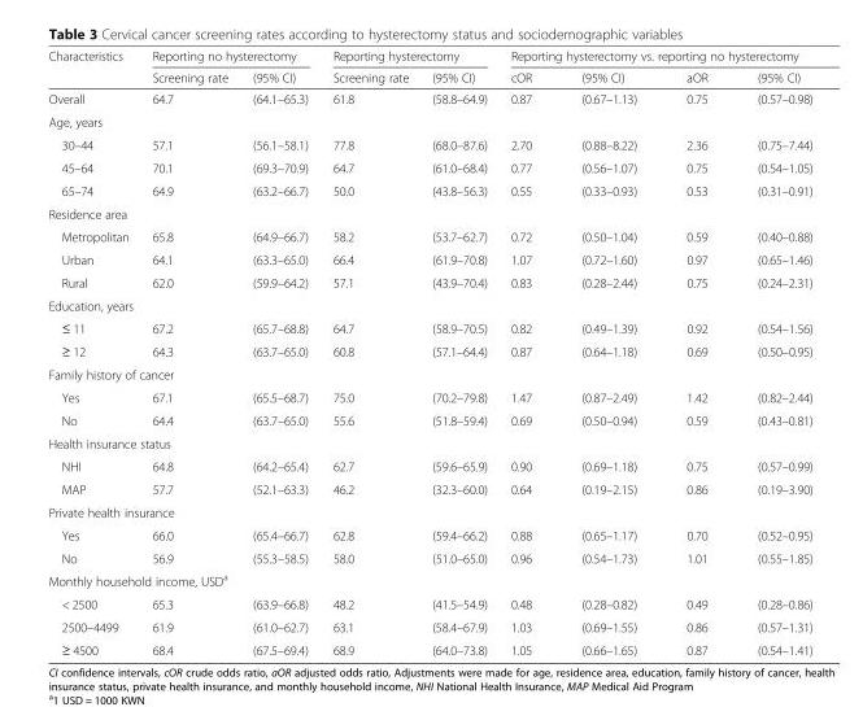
<table><thead><tr><td rowspan="2">Characteristics</td><td colspan="2">Reporting no hysterectomy</td><td colspan="2">Reporting hysterectomy</td><td colspan="4">Reporting hysterectomy vs. reporting no hysterectomy</td></tr><tr><td>Screening rate</td><td>(95% CI)</td><td>Screening rate</td><td>(95% CI)</td><td>cOR</td><td>(95% CI)</td><td>aOR</td><td>(95% CI)</td></tr></thead><tbody><tr><td>Overall</td><td>64.7</td><td>(64.1–65.3)</td><td>61.8</td><td>(58.8–64.9)</td><td>0.87</td><td>(0.67–1.13)</td><td>0.75</td><td>(0.57–0.98)</td></tr><tr><td colspan="9">Age, years</td></tr><tr><td>30–44</td><td>57.1</td><td>(56.1–58.1)</td><td>77.8</td><td>(68.0–87.6)</td><td>2.70</td><td>(0.88–8.22)</td><td>2.36</td><td>(0.75–7.44)</td></tr><tr><td>45–64</td><td>70.1</td><td>(69.3–70.9)</td><td>64.7</td><td>(61.0–68.4)</td><td>0.77</td><td>(0.56–1.07)</td><td>0.75</td><td>(0.54–1.05)</td></tr><tr><td>65–74</td><td>64.9</td><td>(63.2–66.7)</td><td>50.0</td><td>(43.8–56.3)</td><td>0.55</td><td>(0.33–0.93)</td><td>0.53</td><td>(0.31–0.91)</td></tr><tr><td colspan="9">Residence area</td></tr><tr><td>Metropolitan</td><td>65.8</td><td>(64.9–66.7)</td><td>58.2</td><td>(53.7–62.7)</td><td>0.72</td><td>(0.50–1.04)</td><td>0.59</td><td>(0.40–0.88)</td></tr><tr><td>Urban</td><td>64.1</td><td>(63.3–65.0)</td><td>66.4</td><td>(61.9–70.8)</td><td>1.07</td><td>(0.72–1.60)</td><td>0.97</td><td>(0.65–1.46)</td></tr><tr><td>Rural</td><td>62.0</td><td>(59.9–64.2)</td><td>57.1</td><td>(43.9–70.4)</td><td>0.83</td><td>(0.28–2.44)</td><td>0.75</td><td>(0.24–2.31)</td></tr><tr><td colspan="9">Education, years</td></tr><tr><td>≤ 11</td><td>67.2</td><td>(65.7–68.8)</td><td>64.7</td><td>(58.9–70.5)</td><td>0.82</td><td>(0.49–1.39)</td><td>0.92</td><td>(0.54–1.56)</td></tr><tr><td>≥ 12</td><td>64.3</td><td>(63.7–65.0)</td><td>60.8</td><td>(57.1–64.4)</td><td>0.87</td><td>(0.64–1.18)</td><td>0.69</td><td>(0.50–0.95)</td></tr><tr><td colspan="9">Family history of cancer</td></tr><tr><td>Yes</td><td>67.1</td><td>(65.5–68.7)</td><td>75.0</td><td>(70.2–79.8)</td><td>1.47</td><td>(0.87–2.49)</td><td>1.42</td><td>(0.82–2.44)</td></tr><tr><td>No</td><td>64.4</td><td>(63.7–65.0)</td><td>55.6</td><td>(51.8–59.4)</td><td>0.69</td><td>(0.50–0.94)</td><td>0.59</td><td>(0.43–0.81)</td></tr><tr><td colspan="9">Health insurance status</td></tr><tr><td>NHI</td><td>64.8</td><td>(64.2–65.4)</td><td>62.7</td><td>(59.6–65.9)</td><td>0.90</td><td>(0.69–1.18)</td><td>0.75</td><td>(0.57–0.99)</td></tr><tr><td>MAP</td><td>57.7</td><td>(52.1–63.3)</td><td>46.2</td><td>(32.3–60.0)</td><td>0.64</td><td>(0.19–2.15)</td><td>0.86</td><td>(0.19–3.90)</td></tr><tr><td colspan="9">Private health insurance</td></tr><tr><td>Yes</td><td>66.0</td><td>(65.4–66.7)</td><td>62.8</td><td>(59.4–66.2)</td><td>0.88</td><td>(0.65–1.17)</td><td>0.70</td><td>(0.52–0.95)</td></tr><tr><td>No</td><td>56.9</td><td>(55.3–58.5)</td><td>58.0</td><td>(51.0–65.0)</td><td>0.96</td><td>(0.54–1.73)</td><td>1.01</td><td>(0.55–1.85)</td></tr><tr><td colspan="9">Monthly household income, USD<sup>a</sup></td></tr><tr><td>&lt; 2500</td><td>65.3</td><td>(63.9–66.8)</td><td>48.2</td><td>(41.5–54.9)</td><td>0.48</td><td>(0.28–0.82)</td><td>0.49</td><td>(0.28–0.86)</td></tr><tr><td>2500–4499</td><td>61.9</td><td>(61.0–62.7)</td><td>63.1</td><td>(58.4–67.9)</td><td>1.03</td><td>(0.69–1.55)</td><td>0.86</td><td>(0.57–1.31)</td></tr><tr><td>≥ 4500</td><td>68.4</td><td>(67.5–69.4)</td><td>68.9</td><td>(64.0–73.8)</td><td>1.05</td><td>(0.66–1.65)</td><td>0.87</td><td>(0.54–1.41)</td></tr></tbody></table>